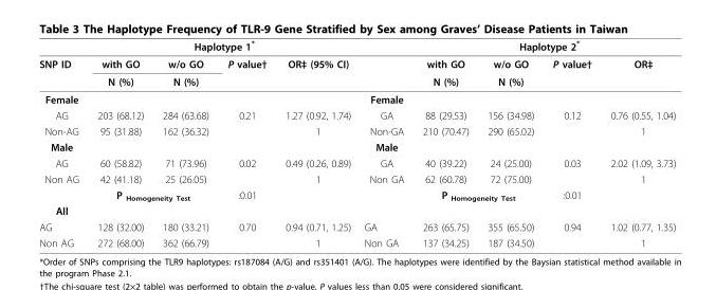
<table><thead><tr><td rowspan="2">SNP ID</td><td colspan="4">Haplotype 1*</td><td rowspan="2"></td><td colspan="4">Haplotype 2*</td></tr><tr><td>with GO</td><td>w/o GO</td><td>P value†</td><td>OR‡ (95% CI)</td><td>with GO</td><td>w/o GO</td><td>P value†</td><td>OR‡</td></tr></thead><tbody><tr><td></td><td>N (%)</td><td>N (%)</td><td></td><td></td><td></td><td>N (%)</td><td>N (%)</td><td></td><td></td></tr><tr><td>Female</td><td></td><td></td><td></td><td></td><td>Female</td><td></td><td></td><td></td><td></td></tr><tr><td>AG</td><td>203 (68.12)</td><td>284 (63.68)</td><td>0.21</td><td>1.27 (0.92, 1.74)</td><td>GA</td><td>88 (29.53)</td><td>156 (34.98)</td><td>0.12</td><td>0.76 (0.55, 1.04)</td></tr><tr><td>Non-AG</td><td>95 (31.88)</td><td>162 (36.32)</td><td></td><td>1</td><td>Non-GA</td><td>210 (70.47)</td><td>290 (65.02)</td><td></td><td>1</td></tr><tr><td>Male</td><td></td><td></td><td></td><td></td><td>Male</td><td></td><td></td><td></td><td></td></tr><tr><td>AG</td><td>60 (58.82)</td><td>71 (73.96)</td><td>0.02</td><td>0.49 (0.26, 0.89)</td><td>GA</td><td>40 (39.22)</td><td>24 (25.00)</td><td>0.03</td><td>2.02 (1.09, 3.73)</td></tr><tr><td rowspan="2">Non AG</td><td>42 (41.18)</td><td>25 (26.05)</td><td></td><td>1</td><td>Non GA</td><td>62 (60.78)</td><td>72 (75.00)</td><td></td><td>1</td></tr><tr><td colspan="2">P <sub>Homogeneity Test</sub></td><td>:0.01</td><td></td><td></td><td colspan="2">P <sub>Homogeneity Test</sub></td><td>:0.01</td><td></td></tr><tr><td colspan="10">All</td></tr><tr><td>AG</td><td>128 (32.00)</td><td>180 (33.21)</td><td>0.70</td><td>0.94 (0.71, 1.25)</td><td>GA</td><td>263 (65.75)</td><td>355 (65.50)</td><td>0.94</td><td>1.02 (0.77, 1.35)</td></tr><tr><td>Non AG</td><td>272 (68.00)</td><td>362 (66.79)</td><td></td><td>1</td><td>Non GA</td><td>137 (34.25)</td><td>187 (34.50)</td><td></td><td>1</td></tr></tbody></table>